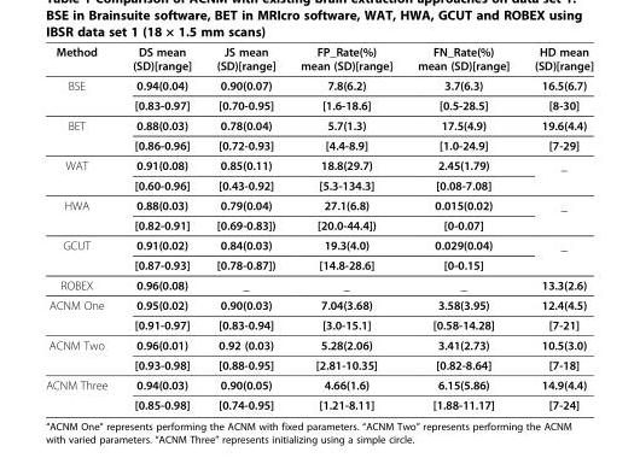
<table><thead><tr><td>Method</td><td>DS mean (SD)[range]</td><td>JS mean (SD)[range]</td><td>FP_Rate(%) mean (SD)[range]</td><td>FN_Rate(%) mean (SD)[range]</td><td>HD mean (SD)[range]</td></tr></thead><tbody><tr><td rowspan="2">BSE</td><td>0.94(0.04)</td><td>0.90(0.07)</td><td>7.8(6.2)</td><td>3.7(6.3)</td><td>16.5(6.7)</td></tr><tr><td>[0.83-0.97]</td><td>[0.70-0.95]</td><td>[1.6-18.6]</td><td>[0.5-28.5]</td><td>[8-30]</td></tr><tr><td rowspan="2">BET</td><td>0.88(0.03)</td><td>0.78(0.04)</td><td>5.7(1.3)</td><td>17.5(4.9)</td><td>19.6(4.4)</td></tr><tr><td>[0.86-0.96]</td><td>[0.72-0.93]</td><td>[4.4-8.9]</td><td>[1.0-24.9]</td><td>[7-29]</td></tr><tr><td rowspan="2">WAT</td><td>0.91(0.08)</td><td>0.85(0.11)</td><td>18.8(29.7)</td><td>2.45(1.79)</td><td rowspan="2">_</td></tr><tr><td>[0.60-0.96]</td><td>[0.43-0.92]</td><td>[5.3-134.3]</td><td>[0.08-7.08]</td></tr><tr><td rowspan="2">HWA</td><td>0.88(0.03)</td><td>0.79(0.04)</td><td>27.1(6.8)</td><td>0.015(0.02)</td><td rowspan="2">_</td></tr><tr><td>[0.82-0.91]</td><td>[0.69-0.83])</td><td>[20.0-44.4])</td><td>[0-0.07]</td></tr><tr><td rowspan="2">GCUT</td><td>0.91(0.02)</td><td>0.84(0.03)</td><td>19.3(4.0)</td><td>0.029(0.04)</td><td rowspan="2">_</td></tr><tr><td>[0.87-0.93]</td><td>[0.78-0.87])</td><td>[14.8-28.6]</td><td>[0-0.15]</td></tr><tr><td>ROBEX</td><td>0.96(0.08)</td><td>_</td><td>_</td><td>_</td><td>13.3(2.6)</td></tr><tr><td rowspan="2">ACNM One</td><td>0.95(0.02)</td><td>0.90(0.03)</td><td>7.04(3.68)</td><td>3.58(3.95)</td><td>12.4(4.5)</td></tr><tr><td>[0.91-0.97]</td><td>[0.83-0.94]</td><td>[3.0-15.1]</td><td>[0.58-14.28]</td><td>[7-21]</td></tr><tr><td rowspan="2">ACNM Two</td><td>0.96(0.01)</td><td>0.92 (0.03)</td><td>5.28(2.06)</td><td>3.41(2.73)</td><td>10.5(3.0)</td></tr><tr><td>[0.93-0.98]</td><td>[0.88-0.95]</td><td>[2.81-10.35]</td><td>[0.82-8.64]</td><td>[7-18]</td></tr><tr><td rowspan="2">ACNM Three</td><td>0.94(0.03)</td><td>0.90(0.05)</td><td>4.66(1.6)</td><td>6.15(5.86)</td><td>14.9(4.4)</td></tr><tr><td>[0.85-0.98]</td><td>[0.74-0.95]</td><td>[1.21-8.11]</td><td>[1.88-11.17]</td><td>[7-24]</td></tr></tbody></table>